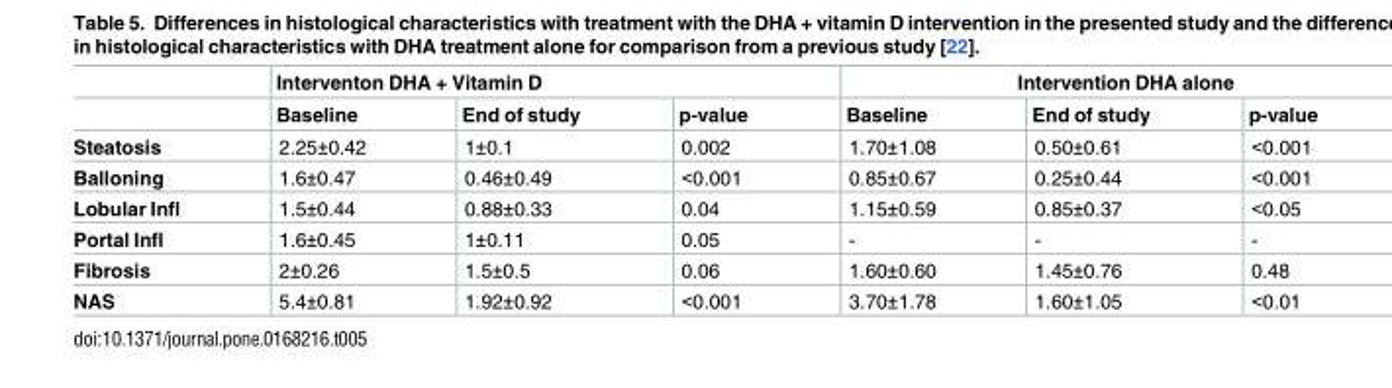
<table><thead><tr><td rowspan="2"></td><td colspan="3">Interventon DHA + Vitamin D</td><td colspan="3">Intervention DHA alone</td></tr><tr><td>Baseline</td><td>End of study</td><td>p-value</td><td>Baseline</td><td>End of study</td><td>p-value</td></tr></thead><tbody><tr><td>Steatosis</td><td>2.25±0.42</td><td>1±0.1</td><td>0.002</td><td>1.70±1.08</td><td>0.50±0.61</td><td>&lt;0.001</td></tr><tr><td>Balloning</td><td>1.6±0.47</td><td>0.46±0.49</td><td>&lt;0.001</td><td>0.85±0.67</td><td>0.25±0.44</td><td>&lt;0.001</td></tr><tr><td>Lobular Infl</td><td>1.5±0.44</td><td>0.88±0.33</td><td>0.04</td><td>1.15±0.59</td><td>0.85±0.37</td><td>&lt;0.05</td></tr><tr><td>Portal Infl</td><td>1.6±0.45</td><td>1±0.11</td><td>0.05</td><td>-</td><td>-</td><td>-</td></tr><tr><td>Fibrosis</td><td>2±0.26</td><td>1.5±0.5</td><td>0.06</td><td>1.60±0.60</td><td>1.45±0.76</td><td>0.48</td></tr><tr><td>NAS</td><td>5.4±0.81</td><td>1.92±0.92</td><td>&lt;0.001</td><td>3.70±1.78</td><td>1.60±1.05</td><td>&lt;0.01</td></tr></tbody></table>